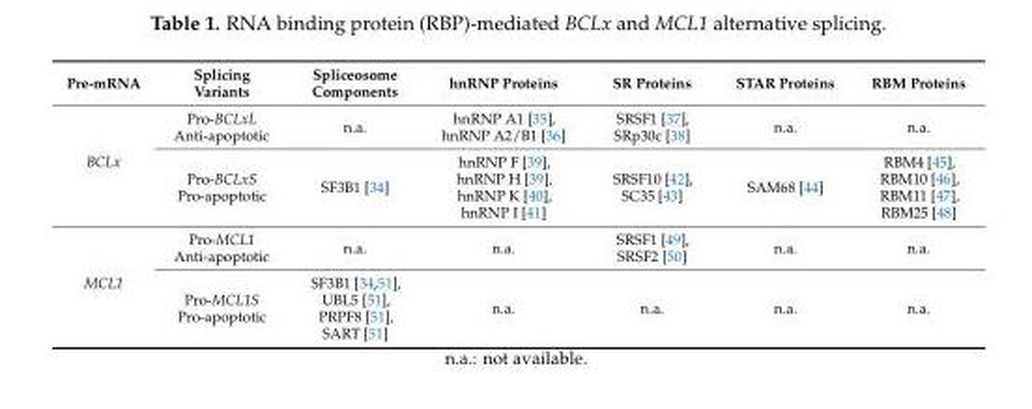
<table><thead><tr><td>Pre-mRNA</td><td>Splicing Variants</td><td>Spliceosome Components</td><td>hnRNP Proteins</td><td>SR Proteins</td><td>STAR Proteins</td><td>RBM Proteins</td></tr></thead><tbody><tr><td rowspan="2">BCLx</td><td>Pro-BCLxL Anti-apoptotic</td><td>n.a.</td><td>hnRNP A1 [35], hnRNP A2/B1 [36]</td><td>SRSF1 [37], SRp30c [38]</td><td>n.a.</td><td>n.a.</td></tr><tr><td>Pro-BCLxS Pro-apoptotic</td><td>SF3B1 [34]</td><td>hnRNP F [39], hnRNP H [39], hnRNP K [40], hnRNP I [41]</td><td>SRSF10 [42], SC35 [43]</td><td>SAM68 [44]</td><td>RBM4 [45], RBM10 [46], RBM11 [47], RBM25 [48]</td></tr><tr><td rowspan="2">MCL1</td><td>Pro-MCL1 Anti-apoptotic</td><td>n.a.</td><td>n.a.</td><td>SRSF1 [49], SRSF2 [50]</td><td>n.a.</td><td>n.a.</td></tr><tr><td>Pro-MCL1S Pro-apoptotic</td><td>SF3B1 [34,51], UBL5 [51], PRPF8 [51], SART [51]</td><td>n.a.</td><td>n.a.</td><td>n.a.</td><td>n.a.</td></tr></tbody></table>